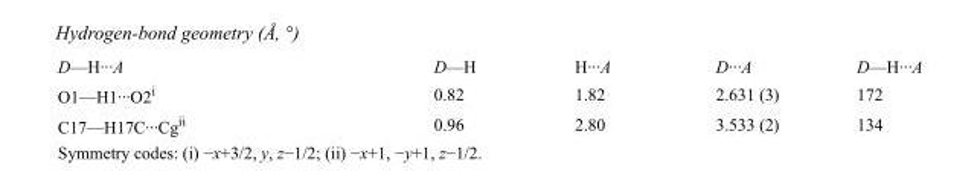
<table><tbody><tr><td>D—H···A</td><td>D—H</td><td>H···A</td><td>D···A</td><td>D—H···A</td></tr><tr><td>O1—H1···O2<sup>i</sup></td><td>0.82</td><td>1.82</td><td>2.631 (3)</td><td>172</td></tr><tr><td>C17—H17C···Cg<sup>ii</sup></td><td>0.96</td><td>2.80</td><td>3.533 (2)</td><td>134</td></tr></tbody></table>